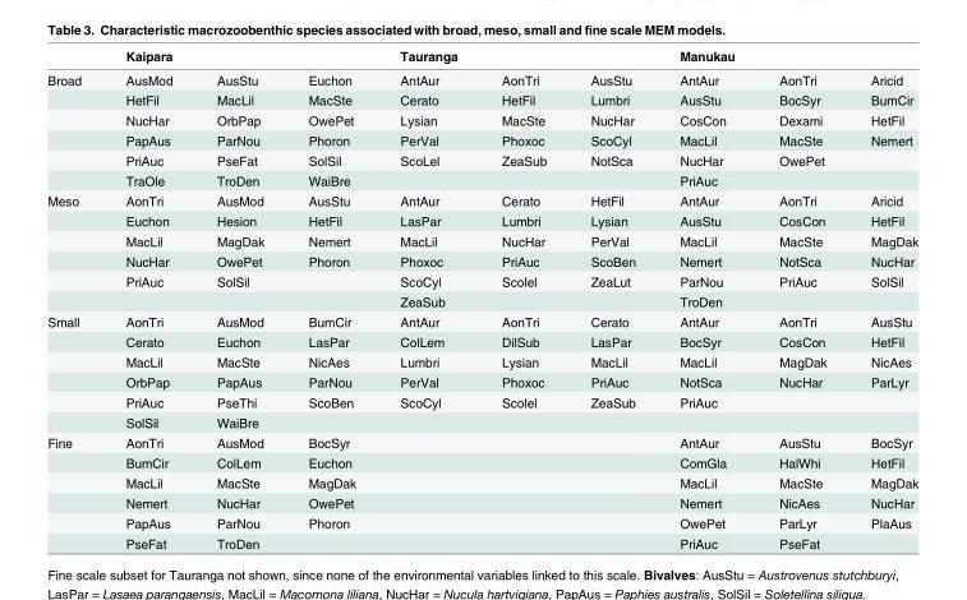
<table><thead><tr><td></td><td>Kaipara</td><td></td><td></td><td>Tauranga</td><td></td><td></td><td>Manukau</td><td></td><td></td></tr></thead><tbody><tr><td rowspan="6">Broad</td><td>AusMod</td><td>AusStu</td><td>Euchon</td><td>AntAur</td><td>AonTri</td><td>AusStu</td><td>AntAur</td><td>AonTri</td><td>Aricid</td></tr><tr><td>HetFil</td><td>MacLil</td><td>MacSte</td><td>Cerato</td><td>HetFil</td><td>Lumbri</td><td>AusStu</td><td>BocSyr</td><td>BumCir</td></tr><tr><td>NucHar</td><td>OrbPap</td><td>OwePet</td><td>Lysian</td><td>MacSte</td><td>NucHar</td><td>CosCon</td><td>Dexami</td><td>HetFil</td></tr><tr><td>PapAus</td><td>ParNou</td><td>Phoron</td><td>PerVal</td><td>Phoxoc</td><td>ScoCyl</td><td>MacLil</td><td>MacSte</td><td>Nemert</td></tr><tr><td>PriAuc</td><td>PseFat</td><td>SolSil</td><td>ScoLel</td><td>ZeaSub</td><td>NotSca</td><td>NucHar</td><td>OwePet</td><td></td></tr><tr><td>TraOle</td><td>TroDen</td><td>WaiBre</td><td></td><td></td><td></td><td>PriAuc</td><td></td><td></td></tr><tr><td rowspan="6">Meso</td><td>AonTri</td><td>AusMod</td><td>AusStu</td><td>AntAur</td><td>Cerato</td><td>HetFil</td><td>AntAur</td><td>AonTri</td><td>Aricid</td></tr><tr><td>Euchon</td><td>Hesion</td><td>HetFil</td><td>LasPar</td><td>Lumbri</td><td>Lysian</td><td>AusStu</td><td>CosCon</td><td>HetFil</td></tr><tr><td>MacLil</td><td>MagDak</td><td>Nemert</td><td>MacLil</td><td>NucHar</td><td>PerVal</td><td>MacLil</td><td>MacSte</td><td>MagDak</td></tr><tr><td>NucHar</td><td>OwePet</td><td>Phoron</td><td>Phoxoc</td><td>PriAuc</td><td>ScoBen</td><td>Nemert</td><td>NotSca</td><td>NucHar</td></tr><tr><td>PriAuc</td><td>SolSil</td><td></td><td>ScoCyl</td><td>Scolel</td><td>ZeaLut</td><td>ParNou</td><td>PriAuc</td><td>SolSil</td></tr><tr><td></td><td></td><td></td><td>ZeaSub</td><td></td><td></td><td>TroDen</td><td></td><td></td></tr><tr><td rowspan="6">Small</td><td>AonTri</td><td>AusMod</td><td>BumCir</td><td>AntAur</td><td>AonTri</td><td>Cerato</td><td>AntAur</td><td>AonTri</td><td>AusStu</td></tr><tr><td>Cerato</td><td>Euchon</td><td>LasPar</td><td>ColLem</td><td>DilSub</td><td>LasPar</td><td>BocSyr</td><td>CosCon</td><td>HetFil</td></tr><tr><td>MacLil</td><td>MacSte</td><td>NicAes</td><td>Lumbri</td><td>Lysian</td><td>MacLil</td><td>MacLil</td><td>MagDak</td><td>NicAes</td></tr><tr><td>OrbPap</td><td>PapAus</td><td>ParNou</td><td>PerVal</td><td>Phoxoc</td><td>PriAuc</td><td>NotSca</td><td>NucHar</td><td>ParLyr</td></tr><tr><td>PriAuc</td><td>PseThi</td><td>ScoBen</td><td>ScoCyl</td><td>Scolel</td><td>ZeaSub</td><td>PriAuc</td><td></td><td></td></tr><tr><td>SolSil</td><td>WaiBre</td><td></td><td></td><td></td><td></td><td></td><td></td><td></td></tr><tr><td rowspan="6">Fine</td><td>AonTri</td><td>AusMod</td><td>BocSyr</td><td></td><td></td><td></td><td>AntAur</td><td>AusStu</td><td>BocSyr</td></tr><tr><td>BumCir</td><td>ColLem</td><td>Euchon</td><td></td><td></td><td></td><td>ComGla</td><td>HalWhi</td><td>HetFil</td></tr><tr><td>MacLil</td><td>MacSte</td><td>MagDak</td><td></td><td></td><td></td><td>MacLil</td><td>MacSte</td><td>MagDak</td></tr><tr><td>Nemert</td><td>NucHar</td><td>OwePet</td><td></td><td></td><td></td><td>Nemert</td><td>NicAes</td><td>NucHar</td></tr><tr><td>PapAus</td><td>ParNou</td><td>Phoron</td><td></td><td></td><td></td><td>OwePet</td><td>ParLyr</td><td>PlaAus</td></tr><tr><td>PseFat</td><td>TroDen</td><td></td><td></td><td></td><td></td><td>PriAuc</td><td>PseFat</td><td></td></tr></tbody></table>